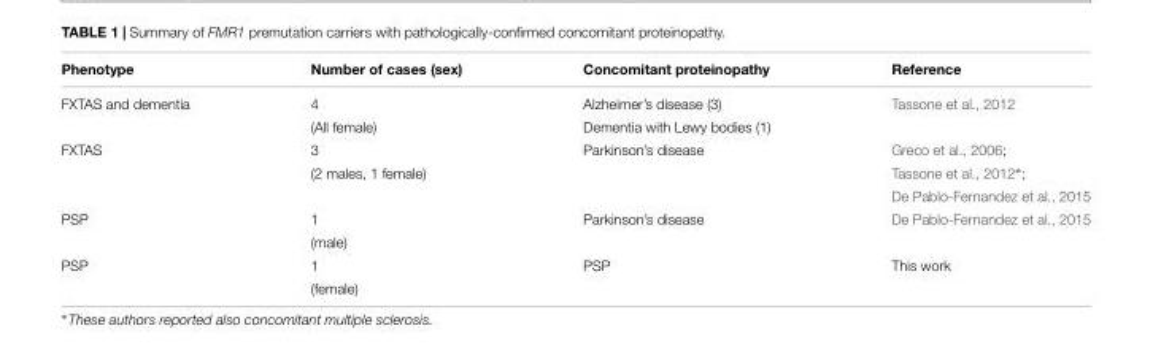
<table><thead><tr><td>Phenotype</td><td>Number of cases (sex)</td><td>Concomitant proteinopathy</td><td>Reference</td></tr></thead><tbody><tr><td rowspan="2">FXTAS and dementia</td><td>4</td><td>Alzheimer’s disease (3)</td><td>Tassone et al., 2012</td></tr><tr><td>(All female)</td><td>Dementia with Lewy bodies (1)</td><td></td></tr><tr><td rowspan="3">FXTAS</td><td>3</td><td>Parkinson’s disease</td><td>Greco et al., 2006;</td></tr><tr><td>(2 males, 1 female)</td><td></td><td>Tassone et al., 2012∗;</td></tr><tr><td></td><td></td><td>De Pablo-Fernandez et al., 2015</td></tr><tr><td rowspan="2">PSP</td><td>1</td><td>Parkinson’s disease</td><td>De Pablo-Fernandez et al., 2015</td></tr><tr><td>(male)</td><td></td><td></td></tr><tr><td rowspan="2">PSP</td><td>1</td><td>PSP</td><td>This work</td></tr><tr><td>(female)</td><td></td><td></td></tr></tbody></table>